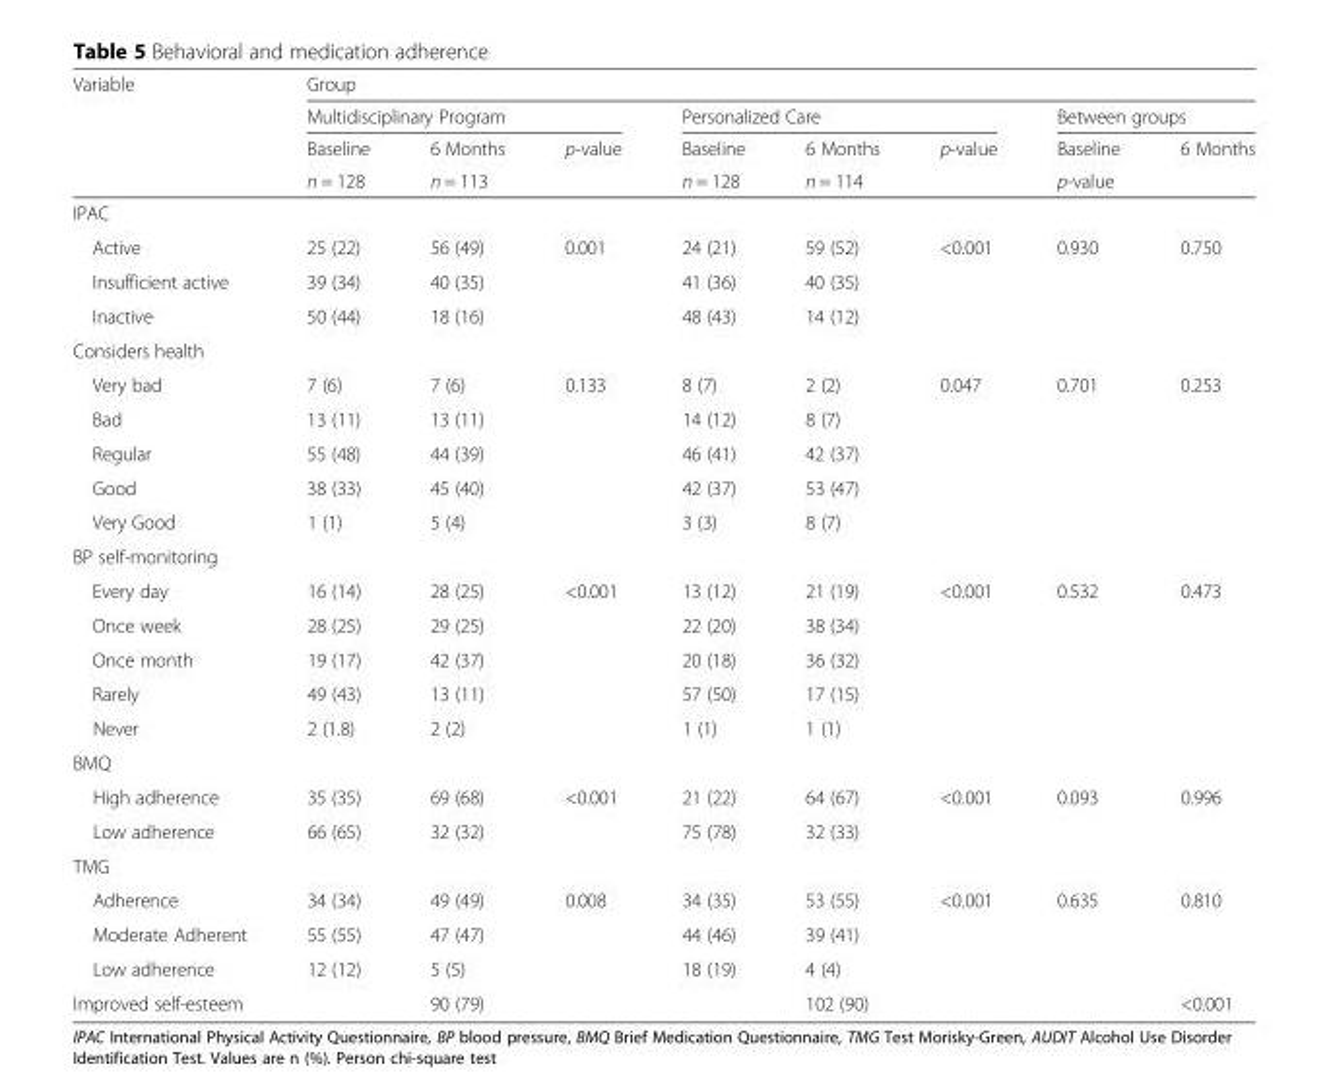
<table><thead><tr><td rowspan="4">Variable</td><td colspan="8">Group</td></tr><tr><td colspan="3">Multidisciplinary Program</td><td colspan="3">Personalized Care</td><td colspan="2">Between groups</td></tr><tr><td rowspan="2">Baseline n = 128</td><td rowspan="2">6 Months n = 113</td><td rowspan="2">p-value</td><td rowspan="2">Baseline n = 128</td><td rowspan="2">6 Months n = 114</td><td rowspan="2">p-value</td><td>Baseline</td><td>6 Months</td></tr><tr><td colspan="2">p-value</td></tr></thead><tbody><tr><td colspan="9">IPAC</td></tr><tr><td>Active</td><td>25 (22)</td><td>56 (49)</td><td rowspan="3">0.001</td><td>24 (21)</td><td>59 (52)</td><td rowspan="3">&lt;0.001</td><td rowspan="3">0.930</td><td rowspan="3">0.750</td></tr><tr><td>Insufficient active</td><td>39 (34)</td><td>40 (35)</td><td>41 (36)</td><td>40 (35)</td></tr><tr><td>Inactive</td><td>50 (44)</td><td>18 (16)</td><td>48 (43)</td><td>14 (12)</td></tr><tr><td colspan="9">Considers health</td></tr><tr><td>Very bad</td><td>7 (6)</td><td>7 (6)</td><td rowspan="5">0.133</td><td>8 (7)</td><td>2 (2)</td><td rowspan="5">0.047</td><td rowspan="5">0.701</td><td rowspan="5">0.253</td></tr><tr><td>Bad</td><td>13 (11)</td><td>13 (11)</td><td>14 (12)</td><td>8 (7)</td></tr><tr><td>Regular</td><td>55 (48)</td><td>44 (39)</td><td>46 (41)</td><td>42 (37)</td></tr><tr><td>Good</td><td>38 (33)</td><td>45 (40)</td><td>42 (37)</td><td>53 (47)</td></tr><tr><td>Very Good</td><td>1 (1)</td><td>5 (4)</td><td>3 (3)</td><td>8 (7)</td></tr><tr><td colspan="9">BP self-monitoring</td></tr><tr><td>Every day</td><td>16 (14)</td><td>28 (25)</td><td rowspan="5">&lt;0.001</td><td>13 (12)</td><td>21 (19)</td><td rowspan="5">&lt;0.001</td><td rowspan="5">0.532</td><td rowspan="5">0.473</td></tr><tr><td>Once week</td><td>28 (25)</td><td>29 (25)</td><td>22 (20)</td><td>38 (34)</td></tr><tr><td>Once month</td><td>19 (17)</td><td>42 (37)</td><td>20 (18)</td><td>36 (32)</td></tr><tr><td>Rarely</td><td>49 (43)</td><td>13 (11)</td><td>57 (50)</td><td>17 (15)</td></tr><tr><td>Never</td><td>2 (1.8)</td><td>2 (2)</td><td>1 (1)</td><td>1 (1)</td></tr><tr><td colspan="9">BMQ</td></tr><tr><td>High adherence</td><td>35 (35)</td><td>69 (68)</td><td rowspan="2">&lt;0.001</td><td>21 (22)</td><td>64 (67)</td><td rowspan="2">&lt;0.001</td><td rowspan="2">0.093</td><td rowspan="2">0.996</td></tr><tr><td>Low adherence</td><td>66 (65)</td><td>32 (32)</td><td>75 (78)</td><td>32 (33)</td></tr><tr><td colspan="9">TMG</td></tr><tr><td>Adherence</td><td>34 (34)</td><td>49 (49)</td><td rowspan="4">0.008</td><td>34 (35)</td><td>53 (55)</td><td rowspan="4">&lt;0.001</td><td rowspan="4">0.635</td><td rowspan="3">0.810</td></tr><tr><td>Moderate Adherent</td><td>55 (55)</td><td>47 (47)</td><td>44 (46)</td><td>39 (41)</td></tr><tr><td>Low adherence</td><td>12 (12)</td><td>5 (5)</td><td>18 (19)</td><td>4 (4)</td></tr><tr><td>Improved self-esteem</td><td></td><td>90 (79)</td><td></td><td>102 (90)</td><td>&lt;0.001</td></tr></tbody></table>